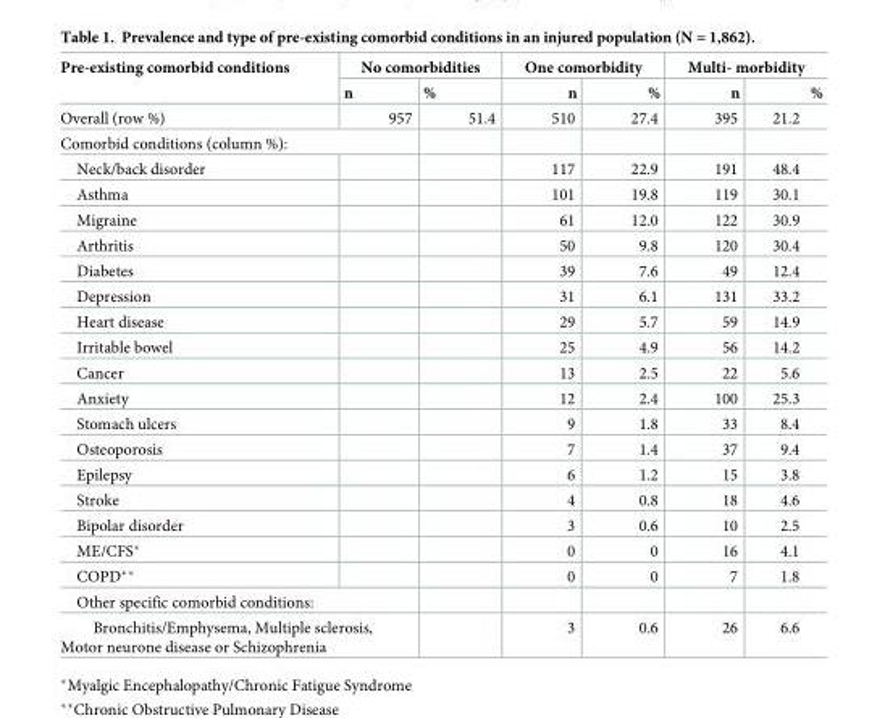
<table><thead><tr><td rowspan="2">Pre-existing comorbid conditions</td><td colspan="2">No comorbidities</td><td colspan="2">One comorbidity</td><td colspan="2">Multi- morbidity</td></tr><tr><td>n</td><td>%</td><td>n</td><td>%</td><td>n</td><td>%</td></tr></thead><tbody><tr><td>Overall (row %)</td><td>957</td><td>51.4</td><td>510</td><td>27.4</td><td>395</td><td>21.2</td></tr><tr><td colspan="7">Comorbid conditions (column %):</td></tr><tr><td>Neck/back disorder</td><td></td><td></td><td>117</td><td>22.9</td><td>191</td><td>48.4</td></tr><tr><td>Asthma</td><td></td><td></td><td>101</td><td>19.8</td><td>119</td><td>30.1</td></tr><tr><td>Migraine</td><td></td><td></td><td>61</td><td>12.0</td><td>122</td><td>30.9</td></tr><tr><td>Arthritis</td><td></td><td></td><td>50</td><td>9.8</td><td>120</td><td>30.4</td></tr><tr><td>Diabetes</td><td></td><td></td><td>39</td><td>7.6</td><td>49</td><td>12.4</td></tr><tr><td>Depression</td><td></td><td></td><td>31</td><td>6.1</td><td>131</td><td>33.2</td></tr><tr><td>Heart disease</td><td></td><td></td><td>29</td><td>5.7</td><td>59</td><td>14.9</td></tr><tr><td>Irritable bowel</td><td></td><td></td><td>25</td><td>4.9</td><td>56</td><td>14.2</td></tr><tr><td>Cancer</td><td></td><td></td><td>13</td><td>2.5</td><td>22</td><td>5.6</td></tr><tr><td>Anxiety</td><td></td><td></td><td>12</td><td>2.4</td><td>100</td><td>25.3</td></tr><tr><td>Stomach ulcers</td><td></td><td></td><td>9</td><td>1.8</td><td>33</td><td>8.4</td></tr><tr><td>Osteoporosis</td><td></td><td></td><td>7</td><td>1.4</td><td>37</td><td>9.4</td></tr><tr><td>Epilepsy</td><td></td><td></td><td>6</td><td>1.2</td><td>15</td><td>3.8</td></tr><tr><td>Stroke</td><td></td><td></td><td>4</td><td>0.8</td><td>18</td><td>4.6</td></tr><tr><td>Bipolar disorder</td><td></td><td></td><td>3</td><td>0.6</td><td>10</td><td>2.5</td></tr><tr><td>ME/CFS*</td><td></td><td></td><td>0</td><td>0</td><td>16</td><td>4.1</td></tr><tr><td>COPD**</td><td></td><td></td><td>0</td><td>0</td><td>7</td><td>1.8</td></tr><tr><td colspan="7">Other specific comorbid conditions:</td></tr><tr><td colspan="2">Bronchitis/Emphysema, Multiple sclerosis, Motor neurone disease or Schizophrenia</td><td></td><td>3</td><td>0.6</td><td>26</td><td>6.6</td></tr></tbody></table>